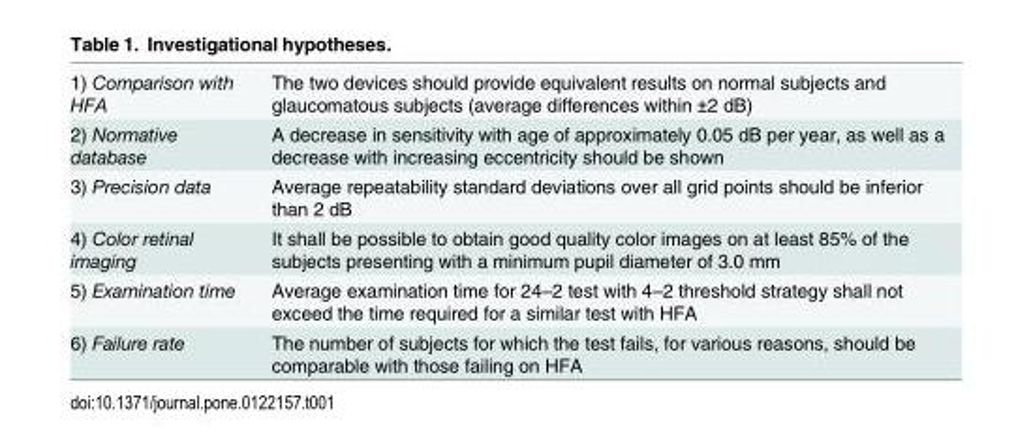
<table><tbody><tr><td>1) Comparison with HFA</td><td>The two devices should provide equivalent results on normal subjects and glaucomatous subjects (average differences within ±2 dB)</td></tr><tr><td>2) Normative database</td><td>A decrease in sensitivity with age of approximately 0.05 dB per year, as well as a decrease with increasing eccentricity should be shown</td></tr><tr><td>3) Precision data</td><td>Average repeatability standard deviations over all grid points should be inferior than 2 dB</td></tr><tr><td>4) Color retinal imaging</td><td>It shall be possible to obtain good quality color images on at least 85% of the subjects presenting with a minimum pupil diameter of 3.0 mm</td></tr><tr><td>5) Examination time</td><td>Average examination time for 24–2 test with 4–2 threshold strategy shall not exceed the time required for a similar test with HFA</td></tr><tr><td>6) Failure rate</td><td>The number of subjects for which the test fails, for various reasons, should be comparable with those failing on HFA</td></tr></tbody></table>